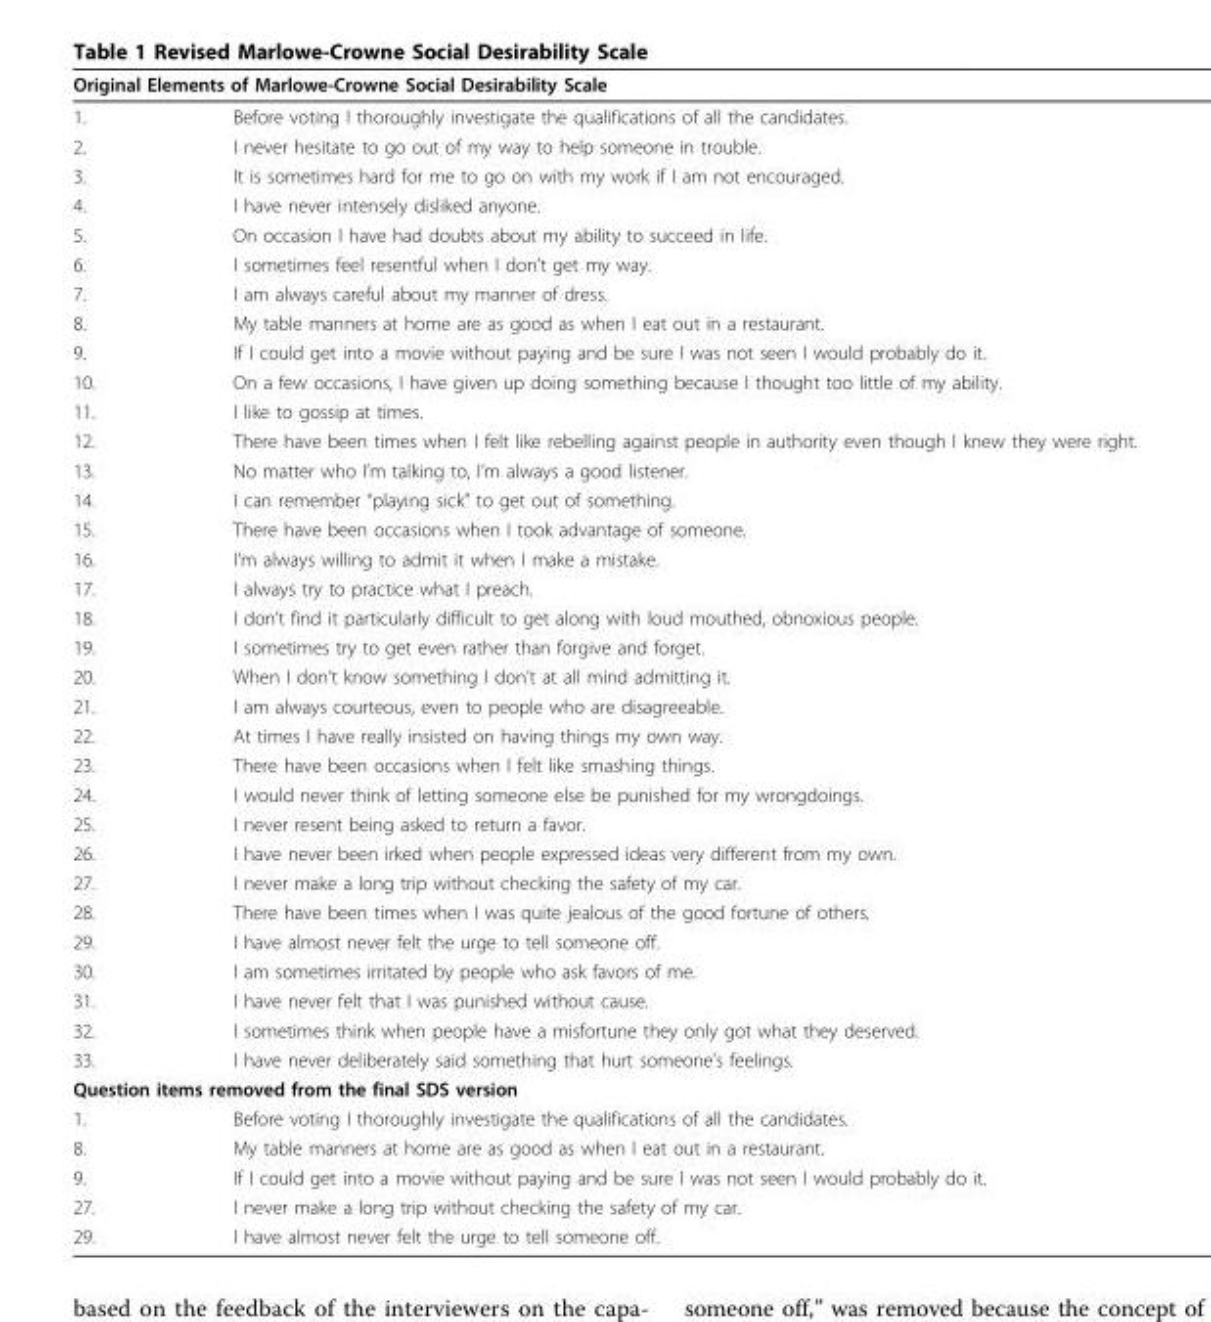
<table><thead><tr><td colspan="2">Original Elements of Marlowe-Crowne Social Desirability Scale</td></tr><tr><td>1.</td><td>Before voting I thoroughly investigate the qualifications of all the candidates.</td></tr></thead><tbody><tr><td>2.</td><td>I never hesitate to go out of my way to help someone in trouble.</td></tr><tr><td>3.</td><td>It is sometimes hard for me to go on with my work if I am not encouraged.</td></tr><tr><td>4.</td><td>I have never intensely disliked anyone.</td></tr><tr><td>5.</td><td>On occasion I have had doubts about my ability to succeed in life.</td></tr><tr><td>6.</td><td>I sometimes feel resentful when I don’t get my way.</td></tr><tr><td>7.</td><td>I am always careful about my manner of dress.</td></tr><tr><td>8.</td><td>My table manners at home are as good as when I eat out in a restaurant.</td></tr><tr><td>9.</td><td>If I could get into a movie without paying and be sure I was not seen I would probably do it.</td></tr><tr><td>10.</td><td>On a few occasions, I have given up doing something because I thought too little of my ability.</td></tr><tr><td>11.</td><td>I like to gossip at times.</td></tr><tr><td>12.</td><td>There have been times when I felt like rebelling against people in authority even though I knew they were right.</td></tr><tr><td>13.</td><td>No matter who I’m talking to, I’m always a good listener.</td></tr><tr><td>14.</td><td>I can remember “playing sick” to get out of something.</td></tr><tr><td>15.</td><td>There have been occasions when I took advantage of someone.</td></tr><tr><td>16.</td><td>I’m always willing to admit it when I make a mistake.</td></tr><tr><td>17.</td><td>I always try to practice what I preach.</td></tr><tr><td>18.</td><td>I don’t find it particularly difficult to get along with loud mouthed, obnoxious people.</td></tr><tr><td>19.</td><td>I sometimes try to get even rather than forgive and forget.</td></tr><tr><td>20.</td><td>When I don’t know something I don’t at all mind admitting it.</td></tr><tr><td>21.</td><td>I am always courteous, even to people who are disagreeable.</td></tr><tr><td>22.</td><td>At times I have really insisted on having things my own way.</td></tr><tr><td>23.</td><td>There have been occasions when I felt like smashing things.</td></tr><tr><td>24.</td><td>I would never think of letting someone else be punished for my wrongdoings.</td></tr><tr><td>25.</td><td>I never resent being asked to return a favor.</td></tr><tr><td>26.</td><td>I have never been irked when people expressed ideas very different from my own.</td></tr><tr><td>27.</td><td>I never make a long trip without checking the safety of my car.</td></tr><tr><td>28.</td><td>There have been times when I was quite jealous of the good fortune of others.</td></tr><tr><td>29.</td><td>I have almost never felt the urge to tell someone off.</td></tr><tr><td>30.</td><td>I am sometimes irritated by people who ask favors of me.</td></tr><tr><td>31.</td><td>I have never felt that I was punished without cause.</td></tr><tr><td>32.</td><td>I sometimes think when people have a misfortune they only got what they deserved.</td></tr><tr><td>33.</td><td>I have never deliberately said something that hurt someone’s feelings.</td></tr><tr><td colspan="2">Question items removed from the final SDS version</td></tr><tr><td>1.</td><td>Before voting I thoroughly investigate the qualifications of all the candidates.</td></tr><tr><td>8.</td><td>My table manners at home are as good as when I eat out in a restaurant.</td></tr><tr><td>9.</td><td>If I could get into a movie without paying and be sure I was not seen I would probably do it.</td></tr><tr><td>27.</td><td>I never make a long trip without checking the safety of my car.</td></tr><tr><td>29.</td><td>I have almost never felt the urge to tell someone off.</td></tr></tbody></table>